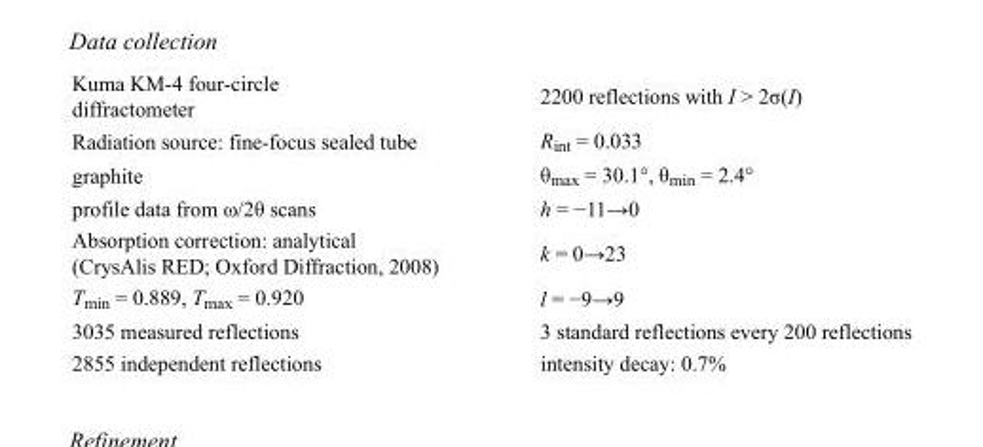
<table><tbody><tr><td>Kuma KM-4 four-circle diffractometer</td><td>2200 reflections with I &gt; 2σ(I)</td></tr><tr><td>Radiation source: fine-focus sealed tube</td><td>R<sub>int</sub> = 0.033</td></tr><tr><td>graphite</td><td>θ<sub>max</sub> = 30.1°, θ<sub>min</sub> = 2.4°</td></tr><tr><td>profile data from ω/2θ scans</td><td>h = −11→0</td></tr><tr><td>Absorption correction: analytical (CrysAlis RED; Oxford Diffraction, 2008)</td><td>k = 0→23</td></tr><tr><td>T<sub>min</sub> = 0.889, T<sub>max</sub> = 0.920</td><td>l = −9→9</td></tr><tr><td>3035 measured reflections</td><td>3 standard reflections every 200 reflections</td></tr><tr><td>2855 independent reflections</td><td>intensity decay: 0.7%</td></tr></tbody></table>